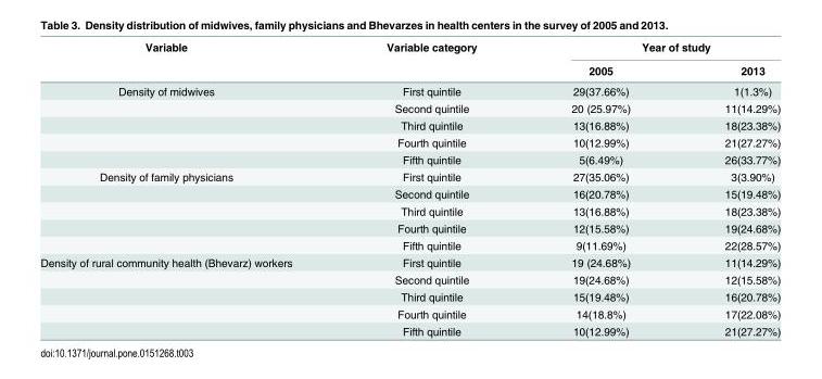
<table><thead><tr><td rowspan="2">Variable</td><td rowspan="2">Variable category</td><td colspan="2">Year of study</td></tr><tr><td>2005</td><td>2013</td></tr></thead><tbody><tr><td rowspan="5">Density of midwives</td><td>First quintile</td><td>29(37.66%)</td><td>1(1.3%)</td></tr><tr><td>Second quintile</td><td>20 (25.97%)</td><td>11(14.29%)</td></tr><tr><td>Third quintile</td><td>13(16.88%)</td><td>18(23.38%)</td></tr><tr><td>Fourth quintile</td><td>10(12.99%)</td><td>21(27.27%)</td></tr><tr><td>Fifth quintile</td><td>5(6.49%)</td><td>26(33.77%)</td></tr><tr><td rowspan="5">Density of family physicians</td><td>First quintile</td><td>27(35.06%)</td><td>3(3.90%)</td></tr><tr><td>Second quintile</td><td>16(20.78%)</td><td>15(19.48%)</td></tr><tr><td>Third quintile</td><td>13(16.88%)</td><td>18(23.38%)</td></tr><tr><td>Fourth quintile</td><td>12(15.58%)</td><td>19(24.68%)</td></tr><tr><td>Fifth quintile</td><td>9(11.69%)</td><td>22(28.57%)</td></tr><tr><td rowspan="5">Density of rural community health (Bhevarz) workers</td><td>First quintile</td><td>19 (24.68%)</td><td>11(14.29%)</td></tr><tr><td>Second quintile</td><td>19(24.68%)</td><td>12(15.58%)</td></tr><tr><td>Third quintile</td><td>15(19.48%)</td><td>16(20.78%)</td></tr><tr><td>Fourth quintile</td><td>14(18.8%)</td><td>17(22.08%)</td></tr><tr><td>Fifth quintile</td><td>10(12.99%)</td><td>21(27.27%)</td></tr></tbody></table>